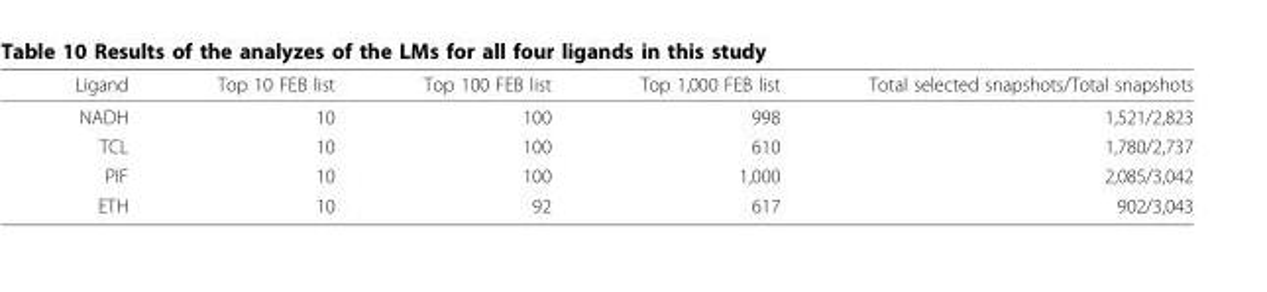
<table><thead><tr><td>Ligand</td><td>Top 10 FEB list</td><td>Top 100 FEB list</td><td>Top 1,000 FEB list</td><td>Total selected snapshots/Total snapshots</td></tr></thead><tbody><tr><td>NADH</td><td>10</td><td>100</td><td>998</td><td>1,521/2,823</td></tr><tr><td>TCL</td><td>10</td><td>100</td><td>610</td><td>1,780/2,737</td></tr><tr><td>PIF</td><td>10</td><td>100</td><td>1,000</td><td>2,085/3,042</td></tr><tr><td>ETH</td><td>10</td><td>92</td><td>617</td><td>902/3,043</td></tr></tbody></table>